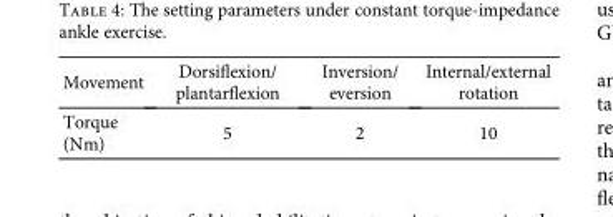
<table><thead><tr><td>Movement</td><td>Dorsiflexion/ plantarflexion</td><td>Inversion/ eversion</td><td>Internal/external rotation</td></tr></thead><tbody><tr><td>Torque (Nm)</td><td>5</td><td>2</td><td>10</td></tr></tbody></table>